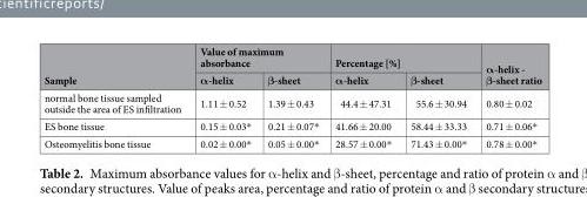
<table><thead><tr><td rowspan="2">Sample</td><td colspan="2">Value of maximum absorbance</td><td colspan="2">Percentage [%]</td><td rowspan="2">α-helix - β-sheet ratio</td></tr><tr><td>α-helix</td><td>β-sheet</td><td>α-helix</td><td>β-sheet</td></tr></thead><tbody><tr><td>normal bone tissue sampled outside the area of ES infiltration</td><td>1.11 ± 0.52</td><td>1.39 ± 0.43</td><td>44.4 ± 47.31</td><td>55.6 ± 30.94</td><td>0.80 ± 0.02</td></tr><tr><td>ES bone tissue</td><td>0.15 ± 0.03*</td><td>0.21 ± 0.07*</td><td>41.66 ± 20.00</td><td>58.44 ± 33.33</td><td>0.71 ± 0.06*</td></tr><tr><td>Osteomyelitis bone tissue</td><td>0.02 ± 0.00*</td><td>0.05 ± 0.00*</td><td>28.57 ± 0.00*</td><td>71.43 ± 0.00*</td><td>0.78 ± 0.00*</td></tr></tbody></table>